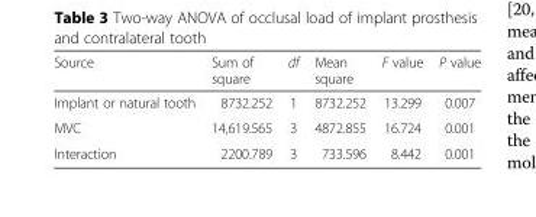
<table><thead><tr><td>Source</td><td>Sum of square</td><td>df</td><td>Mean square</td><td>F value</td><td>P value</td></tr></thead><tbody><tr><td>Implant or natural tooth</td><td>8732.252</td><td>1</td><td>8732.252</td><td>13.299</td><td>0.007</td></tr><tr><td>MVC</td><td>14,619.565</td><td>3</td><td>4872.855</td><td>16.724</td><td>0.001</td></tr><tr><td>Interaction</td><td>2200.789</td><td>3</td><td>733.596</td><td>8.442</td><td>0.001</td></tr></tbody></table>